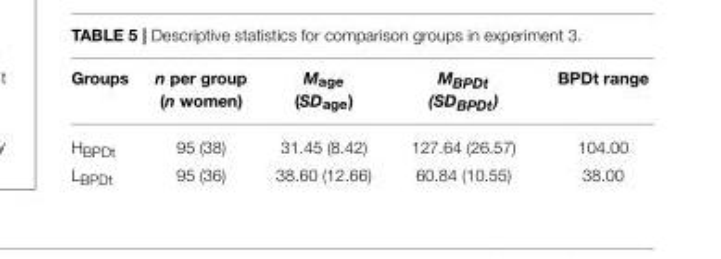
<table><thead><tr><td>Groups</td><td>n per group (n women)</td><td>M<sub>age</sub> (SD<sub>age</sub>)</td><td>MBPDt (SDBPDt)</td><td>BPDt range</td></tr></thead><tbody><tr><td>H<sub>BPDt</sub></td><td>95 (38)</td><td>31.45 (8.42)</td><td>127.64 (26.57)</td><td>104.00</td></tr><tr><td>L<sub>BPDt</sub></td><td>95 (36)</td><td>38.60 (12.66)</td><td>60.84 (10.55)</td><td>38.00</td></tr></tbody></table>